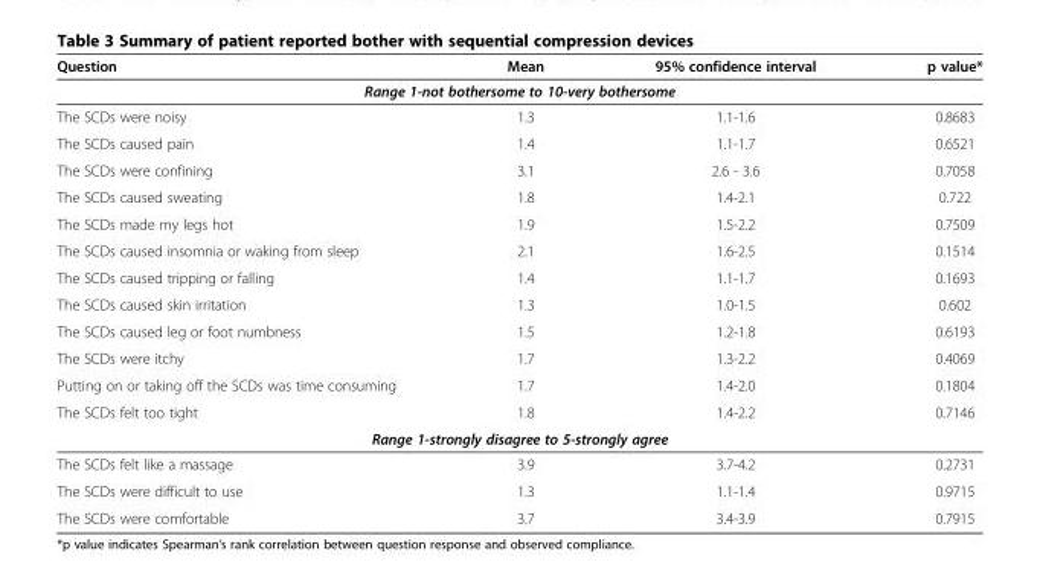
<table><thead><tr><td>Question</td><td>Mean</td><td>95% confidence interval</td><td>p value*</td></tr></thead><tbody><tr><td colspan="4">Range 1-not bothersome to 10-very bothersome</td></tr><tr><td>The SCDs were noisy</td><td>1.3</td><td>1.1-1.6</td><td>0.8683</td></tr><tr><td>The SCDs caused pain</td><td>1.4</td><td>1.1-1.7</td><td>0.6521</td></tr><tr><td>The SCDs were confining</td><td>3.1</td><td>2.6 - 3.6</td><td>0.7058</td></tr><tr><td>The SCDs caused sweating</td><td>1.8</td><td>1.4-2.1</td><td>0.722</td></tr><tr><td>The SCDs made my legs hot</td><td>1.9</td><td>1.5-2.2</td><td>0.7509</td></tr><tr><td>The SCDs caused insomnia or waking from sleep</td><td>2.1</td><td>1.6-2.5</td><td>0.1514</td></tr><tr><td>The SCDs caused tripping or falling</td><td>1.4</td><td>1.1-1.7</td><td>0.1693</td></tr><tr><td>The SCDs caused skin irritation</td><td>1.3</td><td>1.0-1.5</td><td>0.602</td></tr><tr><td>The SCDs caused leg or foot numbness</td><td>1.5</td><td>1.2-1.8</td><td>0.6193</td></tr><tr><td>The SCDs were itchy</td><td>1.7</td><td>1.3-2.2</td><td>0.4069</td></tr><tr><td>Putting on or taking off the SCDs was time consuming</td><td>1.7</td><td>1.4-2.0</td><td>0.1804</td></tr><tr><td>The SCDs felt too tight</td><td>1.8</td><td>1.4-2.2</td><td>0.7146</td></tr><tr><td colspan="4">Range 1-strongly disagree to 5-strongly agree</td></tr><tr><td>The SCDs felt like a massage</td><td>3.9</td><td>3.7-4.2</td><td>0.2731</td></tr><tr><td>The SCDs were difficult to use</td><td>1.3</td><td>1.1-1.4</td><td>0.9715</td></tr><tr><td>The SCDs were comfortable</td><td>3.7</td><td>3.4-3.9</td><td>0.7915</td></tr></tbody></table>